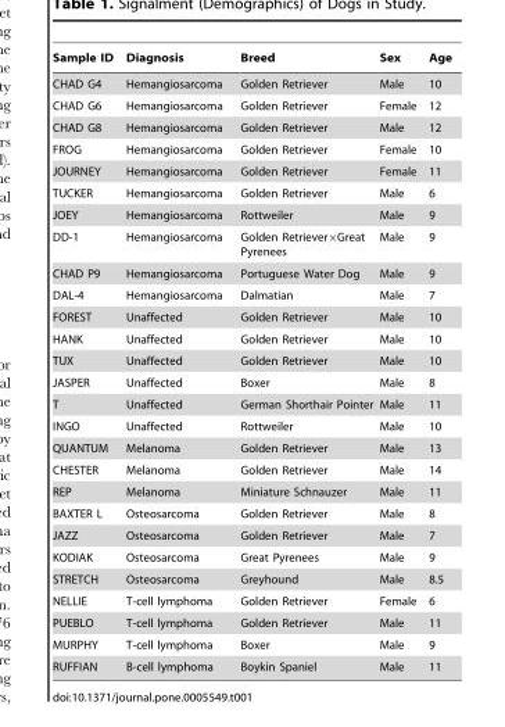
<table><thead><tr><td>Sample ID</td><td>Diagnosis</td><td>Breed</td><td>Sex</td><td>Age</td></tr></thead><tbody><tr><td>CHAD G4</td><td>Hemangiosarcoma</td><td>Golden Retriever</td><td>Male</td><td>10</td></tr><tr><td>CHAD G6</td><td>Hemangiosarcoma</td><td>Golden Retriever</td><td>Female</td><td>12</td></tr><tr><td>CHAD G8</td><td>Hemangiosarcoma</td><td>Golden Retriever</td><td>Male</td><td>12</td></tr><tr><td>FROG</td><td>Hemangiosarcoma</td><td>Golden Retriever</td><td>Female</td><td>10</td></tr><tr><td>JOURNEY</td><td>Hemangiosarcoma</td><td>Golden Retriever</td><td>Female</td><td>11</td></tr><tr><td>TUCKER</td><td>Hemangiosarcoma</td><td>Golden Retriever</td><td>Male</td><td>6</td></tr><tr><td>JOEY</td><td>Hemangiosarcoma</td><td>Rottweiler</td><td>Male</td><td>9</td></tr><tr><td>DD-1</td><td>Hemangiosarcoma</td><td>Golden Retriever×Great Pyrenees</td><td>Male</td><td>9</td></tr><tr><td>CHAD P9</td><td>Hemangiosarcoma</td><td>Portuguese Water Dog</td><td>Male</td><td>9</td></tr><tr><td>DAL-4</td><td>Hemangiosarcoma</td><td>Dalmatian</td><td>Male</td><td>7</td></tr><tr><td>FOREST</td><td>Unaffected</td><td>Golden Retriever</td><td>Male</td><td>10</td></tr><tr><td>HANK</td><td>Unaffected</td><td>Golden Retriever</td><td>Male</td><td>10</td></tr><tr><td>TUX</td><td>Unaffected</td><td>Golden Retriever</td><td>Male</td><td>10</td></tr><tr><td>JASPER</td><td>Unaffected</td><td>Boxer</td><td>Male</td><td>8</td></tr><tr><td>T</td><td>Unaffected</td><td>German Shorthair Pointer</td><td>Male</td><td>11</td></tr><tr><td>INGO</td><td>Unaffected</td><td>Rottweiler</td><td>Male</td><td>10</td></tr><tr><td>QUANTUM</td><td>Melanoma</td><td>Golden Retriever</td><td>Male</td><td>13</td></tr><tr><td>CHESTER</td><td>Melanoma</td><td>Golden Retriever</td><td>Male</td><td>14</td></tr><tr><td>REP</td><td>Melanoma</td><td>Miniature Schnauzer</td><td>Male</td><td>11</td></tr><tr><td>BAXTER L</td><td>Osteosarcoma</td><td>Golden Retriever</td><td>Male</td><td>8</td></tr><tr><td>JAZZ</td><td>Osteosarcoma</td><td>Golden Retriever</td><td>Male</td><td>7</td></tr><tr><td>KODIAK</td><td>Osteosarcoma</td><td>Great Pyrenees</td><td>Male</td><td>9</td></tr><tr><td>STRETCH</td><td>Osteosarcoma</td><td>Greyhound</td><td>Male</td><td>8.5</td></tr><tr><td>NELLIE</td><td>T-cell lymphoma</td><td>Golden Retriever</td><td>Female</td><td>6</td></tr><tr><td>PUEBLO</td><td>T-cell lymphoma</td><td>Golden Retriever</td><td>Male</td><td>11</td></tr><tr><td>MURPHY</td><td>T-cell lymphoma</td><td>Boxer</td><td>Male</td><td>9</td></tr><tr><td>RUFFIAN</td><td>B-cell lymphoma</td><td>Boykin Spaniel</td><td>Male</td><td>11</td></tr></tbody></table>